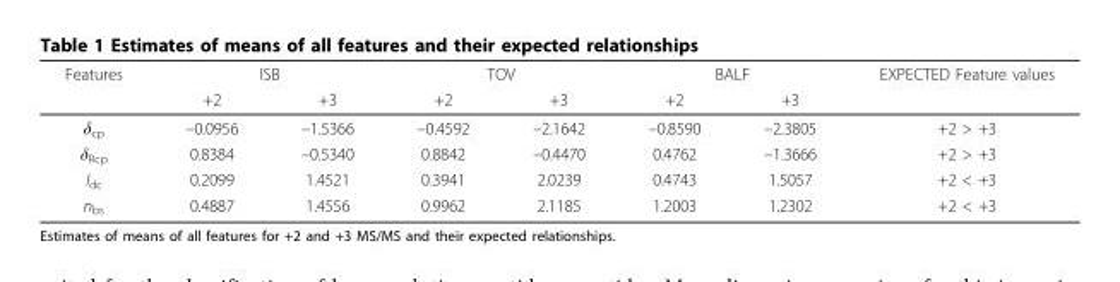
<table><thead><tr><td rowspan="2">Features</td><td colspan="2">ISB</td><td colspan="2">TOV</td><td colspan="2">BALF</td><td rowspan="2">EXPECTED Feature values</td></tr><tr><td>+2</td><td>+3</td><td>+2</td><td>+3</td><td>+2</td><td>+3</td></tr></thead><tbody><tr><td>δ<sub>cp</sub></td><td>–0.0956</td><td>–1.5366</td><td>–0.4592</td><td>–2.1642</td><td>–0.8590</td><td>–2.3805</td><td>+2 &gt; +3</td></tr><tr><td>δ<sub>Rcp</sub></td><td>0.8384</td><td>–0.5340</td><td>0.8842</td><td>–0.4470</td><td>0.4762</td><td>–1.3666</td><td>+2 &gt; +3</td></tr><tr><td>I<sub>dc</sub></td><td>0.2099</td><td>1.4521</td><td>0.3941</td><td>2.0239</td><td>0.4743</td><td>1.5057</td><td>+2 &lt; +3</td></tr><tr><td>n<sub>bs</sub></td><td>0.4887</td><td>1.4556</td><td>0.9962</td><td>2.1185</td><td>1.2003</td><td>1.2302</td><td>+2 &lt; +3</td></tr></tbody></table>